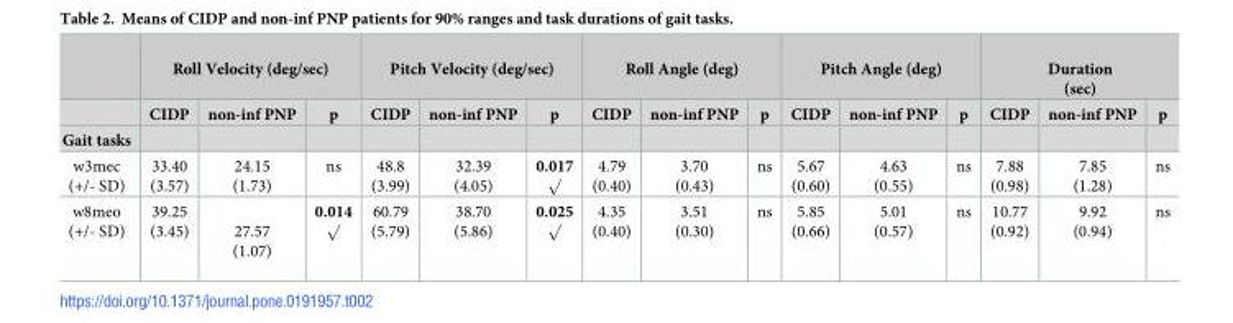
<table><thead><tr><td rowspan="3">Gait tasks</td><td colspan="3">Roll Velocity (deg/sec)</td><td colspan="3">Pitch Velocity (deg/sec)</td><td colspan="3">Roll Angle (deg)</td><td colspan="3">Pitch Angle (deg)</td><td colspan="3">Duration (sec)</td></tr><tr><td rowspan="2">CIDP</td><td rowspan="2">non-inf PNP</td><td rowspan="2">p</td><td rowspan="2">CIDP</td><td rowspan="2">non-inf PNP</td><td rowspan="2">p</td><td rowspan="2">CIDP</td><td rowspan="2">non-inf PNP</td><td rowspan="2">p</td><td rowspan="2">CIDP</td><td rowspan="2">non-inf PNP</td><td rowspan="2">p</td><td rowspan="2">CIDP</td><td rowspan="2">non-inf PNP</td><td rowspan="2">p</td></tr><tr></tr></thead><tbody><tr><td>w3mec (+/- SD)</td><td>33.40 (3.57)</td><td>24.15 (1.73)</td><td>ns</td><td>48.8 (3.99)</td><td>32.39 (4.05)</td><td>0.017 √</td><td>4.79 (0.40)</td><td>3.70 (0.43)</td><td>ns</td><td>5.67 (0.60)</td><td>4.63 (0.55)</td><td>ns</td><td>7.88 (0.98)</td><td>7.85 (1.28)</td><td>ns</td></tr><tr><td>w8meo (+/- SD)</td><td>39.25 (3.45)</td><td>27.57 (1.07)</td><td>0.014 √</td><td>60.79 (5.79)</td><td>38.70 (5.86)</td><td>0.025 √</td><td>4.35 (0.40)</td><td>3.51 (0.30)</td><td>ns</td><td>5.85 (0.66)</td><td>5.01 (0.57)</td><td>ns</td><td>10.77 (0.92)</td><td>9.92 (0.94)</td><td>ns</td></tr></tbody></table>